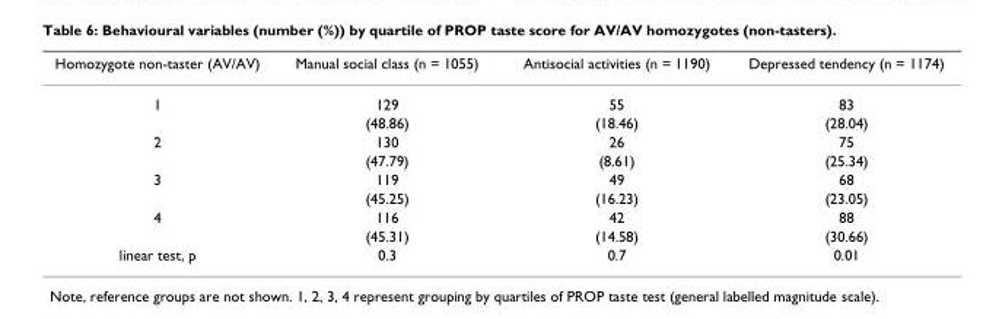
<table><thead><tr><td>Homozygote non-taster (AV/AV)</td><td>Manual social class (n = 1055)</td><td>Antisocial activities (n = 1190)</td><td>Depressed tendency (n = 1174)</td></tr></thead><tbody><tr><td rowspan="2">1</td><td>129</td><td>55</td><td>83</td></tr><tr><td>(48.86)</td><td>(18.46)</td><td>(28.04)</td></tr><tr><td rowspan="2">2</td><td>130</td><td>26</td><td>75</td></tr><tr><td>(47.79)</td><td>(8.61)</td><td>(25.34)</td></tr><tr><td rowspan="2">3</td><td>119</td><td>49</td><td>68</td></tr><tr><td>(45.25)</td><td>(16.23)</td><td>(23.05)</td></tr><tr><td rowspan="2">4</td><td>116</td><td>42</td><td>88</td></tr><tr><td>(45.31)</td><td>(14.58)</td><td>(30.66)</td></tr><tr><td>linear test, p</td><td>0.3</td><td>0.7</td><td>0.01</td></tr></tbody></table>